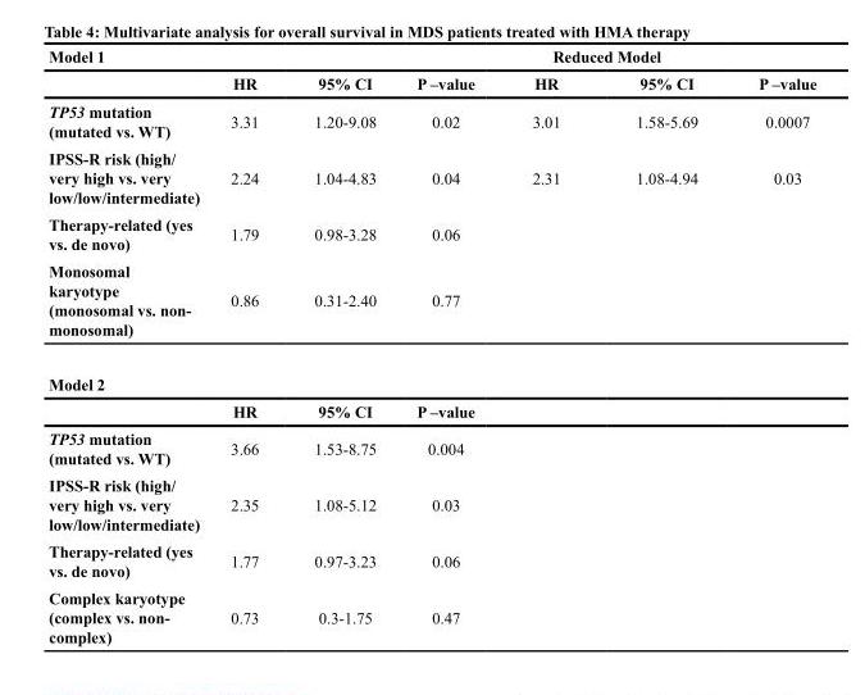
<table><thead><tr><td rowspan="2">Model 1</td><td rowspan="2">HR</td><td rowspan="2">95% CI</td><td rowspan="2">P –value</td><td colspan="2">Reduced Model</td><td rowspan="2">P –value</td></tr><tr><td>HR</td><td>95% CI</td></tr></thead><tbody><tr><td>TP53 mutation (mutated vs. WT)</td><td>3.31</td><td>1.20-9.08</td><td>0.02</td><td>3.01</td><td>1.58-5.69</td><td>0.0007</td></tr><tr><td>IPSS-R risk (high/ very high vs. very low/low/intermediate)</td><td>2.24</td><td>1.04-4.83</td><td>0.04</td><td>2.31</td><td>1.08-4.94</td><td>0.03</td></tr><tr><td>Therapy-related (yes vs. de novo)</td><td>1.79</td><td>0.98-3.28</td><td>0.06</td><td></td><td></td><td></td></tr><tr><td>Monosomal karyotype (monosomal vs. non- monosomal)</td><td>0.86</td><td>0.31-2.40</td><td>0.77</td><td></td><td></td><td></td></tr><tr><td colspan="7">Model 2</td></tr><tr><td></td><td>HR</td><td>95% CI</td><td>P –value</td><td></td><td></td><td></td></tr><tr><td>TP53 mutation (mutated vs. WT)</td><td>3.66</td><td>1.53-8.75</td><td>0.004</td><td></td><td></td><td></td></tr><tr><td>IPSS-R risk (high/ very high vs. very low/low/intermediate)</td><td>2.35</td><td>1.08-5.12</td><td>0.03</td><td></td><td></td><td></td></tr><tr><td>Therapy-related (yes vs. de novo)</td><td>1.77</td><td>0.97-3.23</td><td>0.06</td><td></td><td></td><td></td></tr><tr><td>Complex karyotype (complex vs. non- complex)</td><td>0.73</td><td>0.3-1.75</td><td>0.47</td><td></td><td></td><td></td></tr></tbody></table>